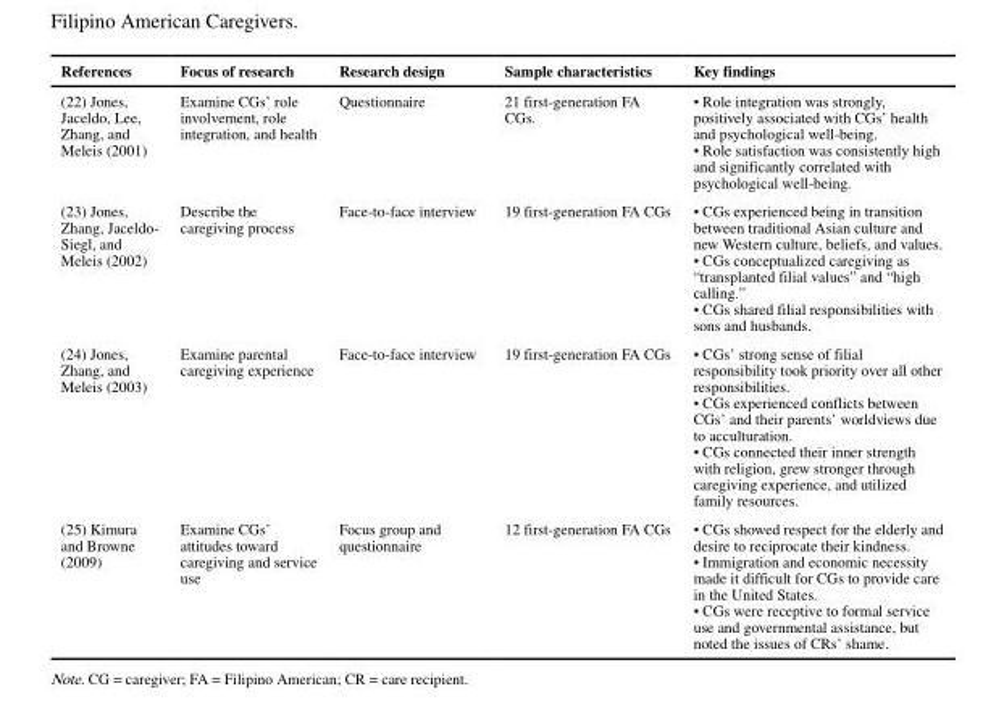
<table><thead><tr><td>References</td><td>Focus of research</td><td>Research design</td><td>Sample characteristics</td><td>Key findings</td></tr></thead><tbody><tr><td>(22) Jones, Jaceldo, Lee, Zhang, and Meleis (2001)</td><td>Examine CGs’ role involvement, role integration, and health</td><td>Questionnaire</td><td>21 first-generation FA CGs.</td><td>• Role integration was strongly, positively associated with CGs’ health and psychological well-being. • Role satisfaction was consistently high and significantly correlated with psychological well-being.</td></tr><tr><td>(23) Jones, Zhang, Jaceldo- Siegl, and Meleis (2002)</td><td>Describe the caregiving process</td><td>Face-to-face interview</td><td>19 first-generation FA CGs</td><td>• CGs experienced being in transition between traditional Asian culture and new Western culture, beliefs, and values. • CGs conceptualized caregiving as “transplanted filial values” and “high calling.” • CGs shared filial responsibilities with sons and husbands.</td></tr><tr><td>(24) Jones, Zhang, and Meleis (2003)</td><td>Examine parental caregiving experience</td><td>Face-to-face interview</td><td>19 first-generation FA CGs</td><td>• CGs’ strong sense of filial responsibility took priority over all other responsibilities. • CGs experienced conflicts between CGs’ and their parents’ worldviews due to acculturation. • CGs connected their inner strength with religion, grew stronger through caregiving experience, and utilized family resources.</td></tr><tr><td>(25) Kimura and Browne (2009)</td><td>Examine CGs’ attitudes toward caregiving and service use</td><td>Focus group and questionnaire</td><td>12 first-generation FA CGs</td><td>• CGs showed respect for the elderly and desire to reciprocate their kindness. • Immigration and economic necessity made it difficult for CGs to provide care in the United States. • CGs were receptive to formal service use and governmental assistance, but noted the issues of CRs’ shame.</td></tr></tbody></table>